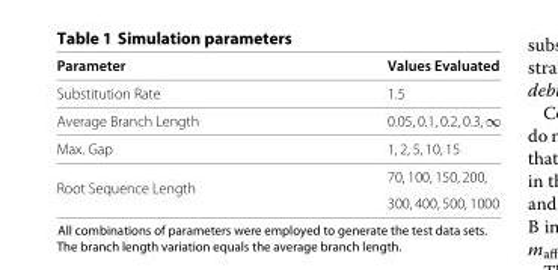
<table><thead><tr><td>Parameter</td><td>Values Evaluated</td></tr></thead><tbody><tr><td>Substitution Rate</td><td>1.5</td></tr><tr><td>Average Branch Length</td><td>0.05, 0.1, 0.2, 0.3, ∞</td></tr><tr><td>Max. Gap</td><td>1, 2, 5, 10, 15</td></tr><tr><td>Root Sequence Length</td><td>70, 100, 150, 200, 300, 400, 500, 1000</td></tr></tbody></table>